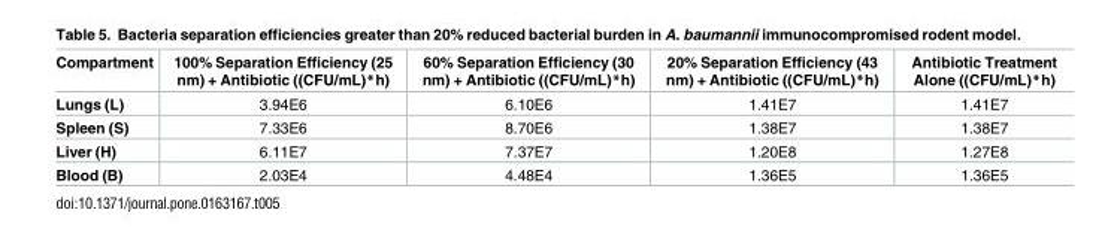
<table><thead><tr><td>Compartment</td><td>100% Separation Efficiency (25 nm) + Antibiotic ((CFU/mL)*h)</td><td>60% Separation Efficiency (30 nm) + Antibiotic ((CFU/mL)*h)</td><td>20% Separation Efficiency (43 nm) + Antibiotic ((CFU/mL)*h)</td><td>Antibiotic Treatment Alone ((CFU/mL)*h)</td></tr></thead><tbody><tr><td>Lungs (L)</td><td>3.94E6</td><td>6.10E6</td><td>1.41E7</td><td>1.41E7</td></tr><tr><td>Spleen (S)</td><td>7.33E6</td><td>8.70E6</td><td>1.38E7</td><td>1.38E7</td></tr><tr><td>Liver (H)</td><td>6.11E7</td><td>7.37E7</td><td>1.20E8</td><td>1.27E8</td></tr><tr><td>Blood (B)</td><td>2.03E4</td><td>4.48E4</td><td>1.36E5</td><td>1.36E5</td></tr></tbody></table>